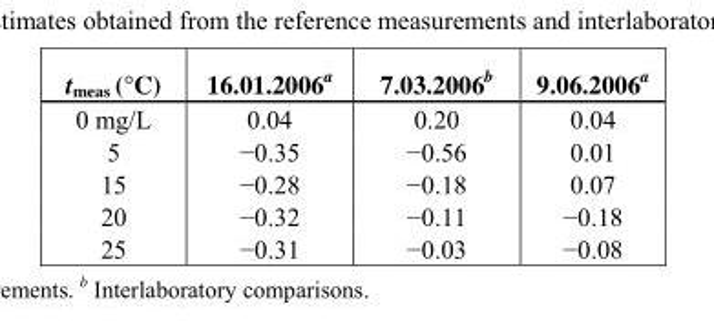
<table><thead><tr><td>t<sub>meas</sub> (°C)</td><td>16.01.2006<sup>a</sup></td><td>7.03.2006<sup>b</sup></td><td>9.06.2006<sup>a</sup></td></tr></thead><tbody><tr><td>0 mg/L</td><td>0.04</td><td>0.20</td><td>0.04</td></tr><tr><td>5</td><td>−0.35</td><td>−0.56</td><td>0.01</td></tr><tr><td>15</td><td>−0.28</td><td>−0.18</td><td>0.07</td></tr><tr><td>20</td><td>−0.32</td><td>−0.11</td><td>−0.18</td></tr><tr><td>25</td><td>−0.31</td><td>−0.03</td><td>−0.08</td></tr></tbody></table>